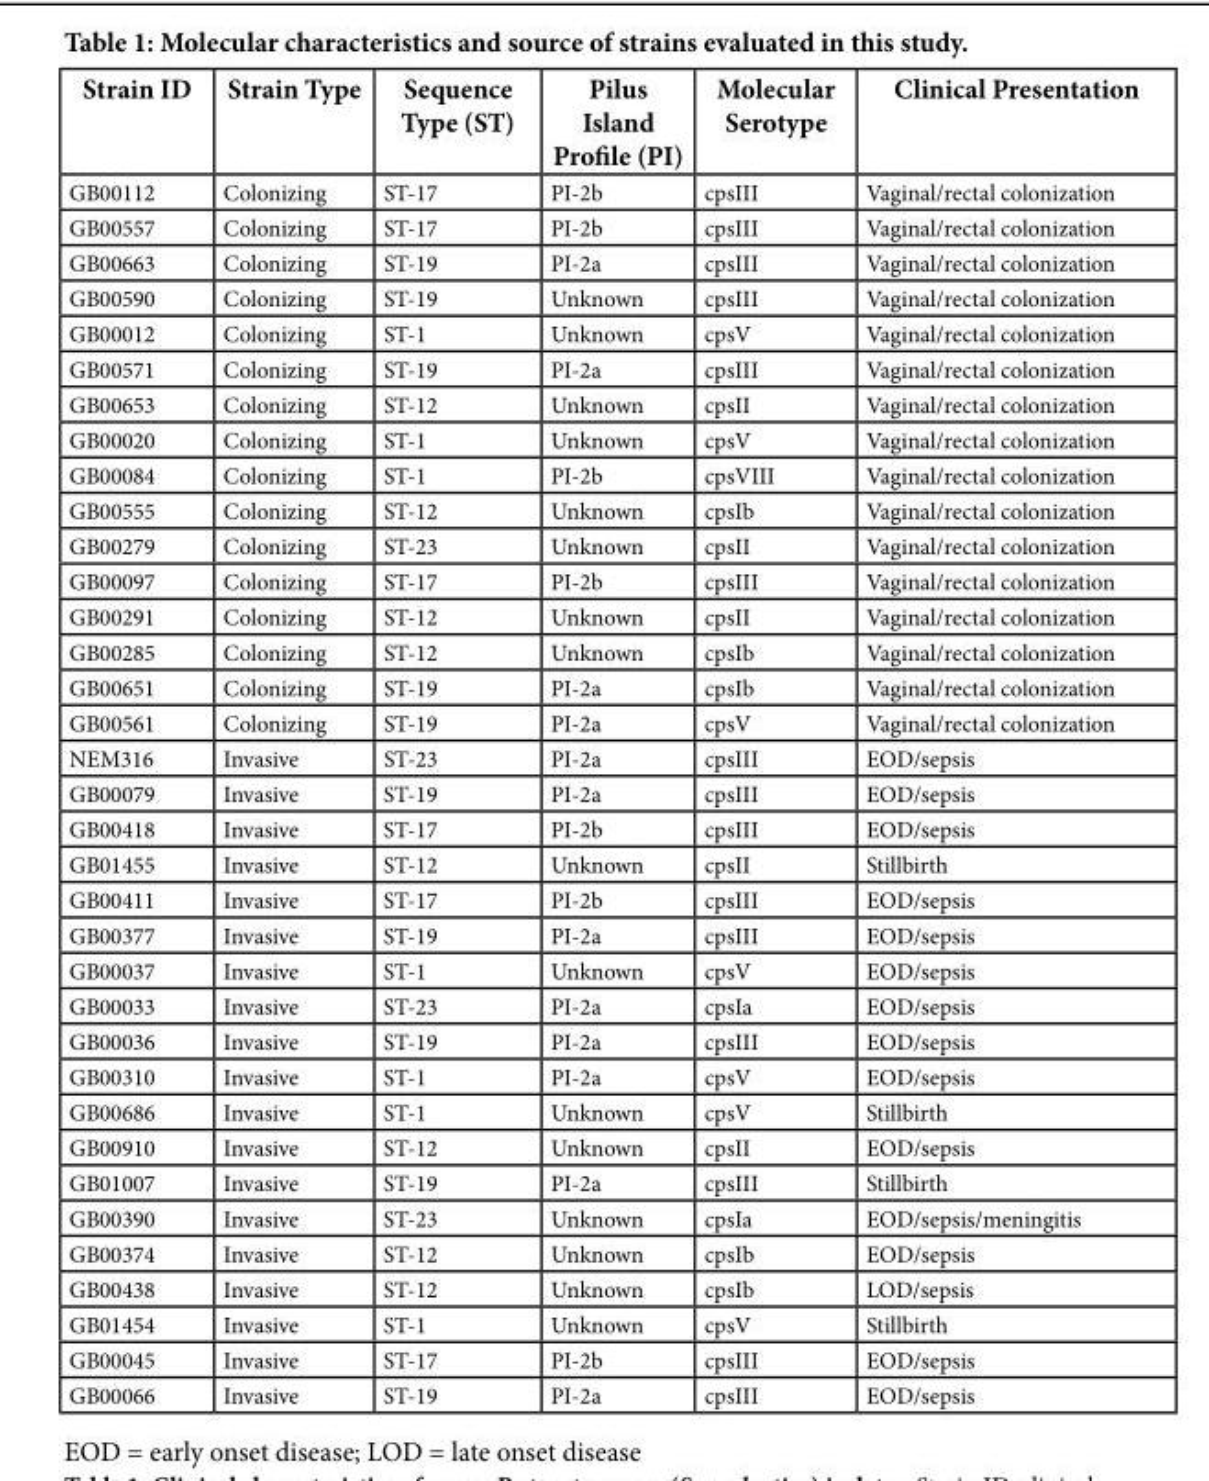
<table><thead><tr><td>Strain ID</td><td>Strain Type</td><td>Sequence Type (ST)</td><td>Pilus Island Profile (PI)</td><td>Molecular Serotype</td><td>Clinical Presentation</td></tr></thead><tbody><tr><td>GB00112</td><td>Colonizing</td><td>ST-17</td><td>PI-2b</td><td>cpsIII</td><td>Vaginal/rectal colonization</td></tr><tr><td>GB00557</td><td>Colonizing</td><td>ST-17</td><td>PI-2b</td><td>cpsIII</td><td>Vaginal/rectal colonization</td></tr><tr><td>GB00663</td><td>Colonizing</td><td>ST-19</td><td>PI-2a</td><td>cpsIII</td><td>Vaginal/rectal colonization</td></tr><tr><td>GB00590</td><td>Colonizing</td><td>ST-19</td><td>Unknown</td><td>cpsIII</td><td>Vaginal/rectal colonization</td></tr><tr><td>GB00012</td><td>Colonizing</td><td>ST-1</td><td>Unknown</td><td>cpsV</td><td>Vaginal/rectal colonization</td></tr><tr><td>GB00571</td><td>Colonizing</td><td>ST-19</td><td>PI-2a</td><td>cpsIII</td><td>Vaginal/rectal colonization</td></tr><tr><td>GB00653</td><td>Colonizing</td><td>ST-12</td><td>Unknown</td><td>cpsII</td><td>Vaginal/rectal colonization</td></tr><tr><td>GB00020</td><td>Colonizing</td><td>ST-1</td><td>Unknown</td><td>cpsV</td><td>Vaginal/rectal colonization</td></tr><tr><td>GB00084</td><td>Colonizing</td><td>ST-1</td><td>PI-2b</td><td>cpsVIII</td><td>Vaginal/rectal colonization</td></tr><tr><td>GB00555</td><td>Colonizing</td><td>ST-12</td><td>Unknown</td><td>cpsIb</td><td>Vaginal/rectal colonization</td></tr><tr><td>GB00279</td><td>Colonizing</td><td>ST-23</td><td>Unknown</td><td>cpsII</td><td>Vaginal/rectal colonization</td></tr><tr><td>GB00097</td><td>Colonizing</td><td>ST-17</td><td>PI-2b</td><td>cpsIII</td><td>Vaginal/rectal colonization</td></tr><tr><td>GB00291</td><td>Colonizing</td><td>ST-12</td><td>Unknown</td><td>cpsII</td><td>Vaginal/rectal colonization</td></tr><tr><td>GB00285</td><td>Colonizing</td><td>ST-12</td><td>Unknown</td><td>cpsIb</td><td>Vaginal/rectal colonization</td></tr><tr><td>GB00651</td><td>Colonizing</td><td>ST-19</td><td>PI-2a</td><td>cpsIb</td><td>Vaginal/rectal colonization</td></tr><tr><td>GB00561</td><td>Colonizing</td><td>ST-19</td><td>PI-2a</td><td>cpsV</td><td>Vaginal/rectal colonization</td></tr><tr><td>NEM316</td><td>Invasive</td><td>ST-23</td><td>PI-2a</td><td>cpsIII</td><td>EOD/sepsis</td></tr><tr><td>GB00079</td><td>Invasive</td><td>ST-19</td><td>PI-2a</td><td>cpsIII</td><td>EOD/sepsis</td></tr><tr><td>GB00418</td><td>Invasive</td><td>ST-17</td><td>PI-2b</td><td>cpsIII</td><td>EOD/sepsis</td></tr><tr><td>GB01455</td><td>Invasive</td><td>ST-12</td><td>Unknown</td><td>cpsII</td><td>Stillbirth</td></tr><tr><td>GB00411</td><td>Invasive</td><td>ST-17</td><td>PI-2b</td><td>cpsIII</td><td>EOD/sepsis</td></tr><tr><td>GB00377</td><td>Invasive</td><td>ST-19</td><td>PI-2a</td><td>cpsIII</td><td>EOD/sepsis</td></tr><tr><td>GB00037</td><td>Invasive</td><td>ST-1</td><td>Unknown</td><td>cpsV</td><td>EOD/sepsis</td></tr><tr><td>GB00033</td><td>Invasive</td><td>ST-23</td><td>PI-2a</td><td>cpsIa</td><td>EOD/sepsis</td></tr><tr><td>GB00036</td><td>Invasive</td><td>ST-19</td><td>PI-2a</td><td>cpsIII</td><td>EOD/sepsis</td></tr><tr><td>GB00310</td><td>Invasive</td><td>ST-1</td><td>PI-2a</td><td>cpsV</td><td>EOD/sepsis</td></tr><tr><td>GB00686</td><td>Invasive</td><td>ST-1</td><td>Unknown</td><td>cpsV</td><td>Stillbirth</td></tr><tr><td>GB00910</td><td>Invasive</td><td>ST-12</td><td>Unknown</td><td>cpsII</td><td>EOD/sepsis</td></tr><tr><td>GB01007</td><td>Invasive</td><td>ST-19</td><td>PI-2a</td><td>cpsIII</td><td>Stillbirth</td></tr><tr><td>GB00390</td><td>Invasive</td><td>ST-23</td><td>Unknown</td><td>cpsIa</td><td>EOD/sepsis/meningitis</td></tr><tr><td>GB00374</td><td>Invasive</td><td>ST-12</td><td>Unknown</td><td>cpsIb</td><td>EOD/sepsis</td></tr><tr><td>GB00438</td><td>Invasive</td><td>ST-12</td><td>Unknown</td><td>cpsIb</td><td>LOD/sepsis</td></tr><tr><td>GB01454</td><td>Invasive</td><td>ST-1</td><td>Unknown</td><td>cpsV</td><td>Stillbirth</td></tr><tr><td>GB00045</td><td>Invasive</td><td>ST-17</td><td>PI-2b</td><td>cpsIII</td><td>EOD/sepsis</td></tr><tr><td>GB00066</td><td>Invasive</td><td>ST-19</td><td>PI-2a</td><td>cpsIII</td><td>EOD/sepsis</td></tr></tbody></table>